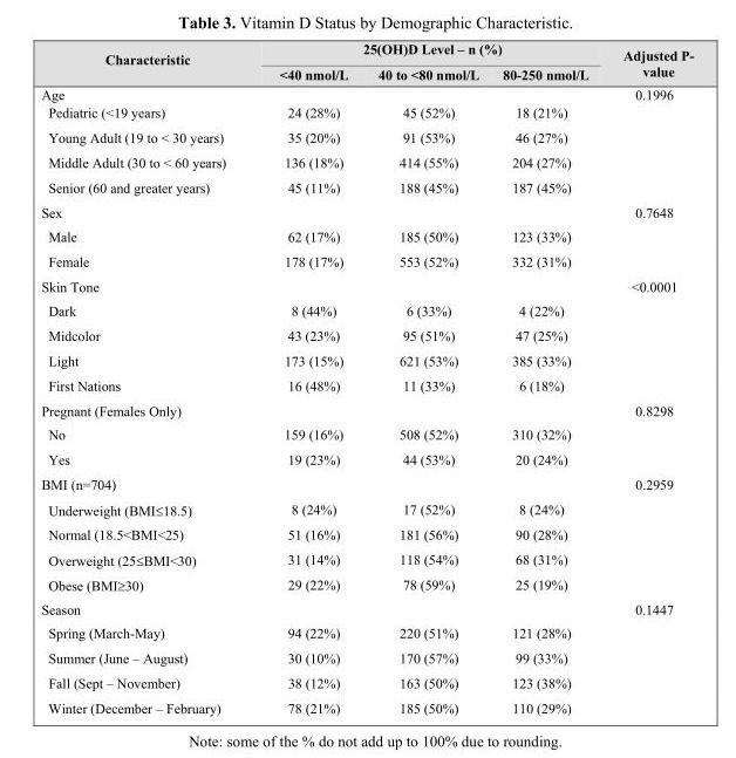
<table><thead><tr><td rowspan="2">Characteristic</td><td colspan="3">25(OH)D Level – n (%)</td><td rowspan="2">Adjusted P- value</td></tr><tr><td>&lt;40 nmol/L</td><td>40 to &lt;80 nmol/L</td><td>80-250 nmol/L</td></tr></thead><tbody><tr><td>Age</td><td></td><td></td><td></td><td>0.1996</td></tr><tr><td>Pediatric (&lt;19 years)</td><td>24 (28%)</td><td>45 (52%)</td><td>18 (21%)</td><td></td></tr><tr><td>Young Adult (19 to &lt; 30 years)</td><td>35 (20%)</td><td>91 (53%)</td><td>46 (27%)</td><td></td></tr><tr><td>Middle Adult (30 to &lt; 60 years)</td><td>136 (18%)</td><td>414 (55%)</td><td>204 (27%)</td><td></td></tr><tr><td>Senior (60 and greater years)</td><td>45 (11%)</td><td>188 (45%)</td><td>187 (45%)</td><td></td></tr><tr><td>Sex</td><td></td><td></td><td></td><td>0.7648</td></tr><tr><td>Male</td><td>62 (17%)</td><td>185 (50%)</td><td>123 (33%)</td><td></td></tr><tr><td>Female</td><td>178 (17%)</td><td>553 (52%)</td><td>332 (31%)</td><td></td></tr><tr><td>Skin Tone</td><td></td><td></td><td></td><td>&lt;0.0001</td></tr><tr><td>Dark</td><td>8 (44%)</td><td>6 (33%)</td><td>4 (22%)</td><td></td></tr><tr><td>Midcolor</td><td>43 (23%)</td><td>95 (51%)</td><td>47 (25%)</td><td></td></tr><tr><td>Light</td><td>173 (15%)</td><td>621 (53%)</td><td>385 (33%)</td><td></td></tr><tr><td>First Nations</td><td>16 (48%)</td><td>11 (33%)</td><td>6 (18%)</td><td></td></tr><tr><td>Pregnant (Females Only)</td><td></td><td></td><td></td><td>0.8298</td></tr><tr><td>No</td><td>159 (16%)</td><td>508 (52%)</td><td>310 (32%)</td><td></td></tr><tr><td>Yes</td><td>19 (23%)</td><td>44 (53%)</td><td>20 (24%)</td><td></td></tr><tr><td>BMI (n=704)</td><td></td><td></td><td></td><td>0.2959</td></tr><tr><td>Underweight (BMI≤18.5)</td><td>8 (24%)</td><td>17 (52%)</td><td>8 (24%)</td><td></td></tr><tr><td>Normal (18.5&lt;BMI&lt;25)</td><td>51 (16%)</td><td>181 (56%)</td><td>90 (28%)</td><td></td></tr><tr><td>Overweight (25≤BMI&lt;30)</td><td>31 (14%)</td><td>118 (54%)</td><td>68 (31%)</td><td></td></tr><tr><td>Obese (BMI≥30)</td><td>29 (22%)</td><td>78 (59%)</td><td>25 (19%)</td><td></td></tr><tr><td>Season</td><td></td><td></td><td></td><td>0.1447</td></tr><tr><td>Spring (March-May)</td><td>94 (22%)</td><td>220 (51%)</td><td>121 (28%)</td><td></td></tr><tr><td>Summer (June – August)</td><td>30 (10%)</td><td>170 (57%)</td><td>99 (33%)</td><td></td></tr><tr><td>Fall (Sept – November)</td><td>38 (12%)</td><td>163 (50%)</td><td>123 (38%)</td><td></td></tr><tr><td>Winter (December – February)</td><td>78 (21%)</td><td>185 (50%)</td><td>110 (29%)</td><td></td></tr></tbody></table>